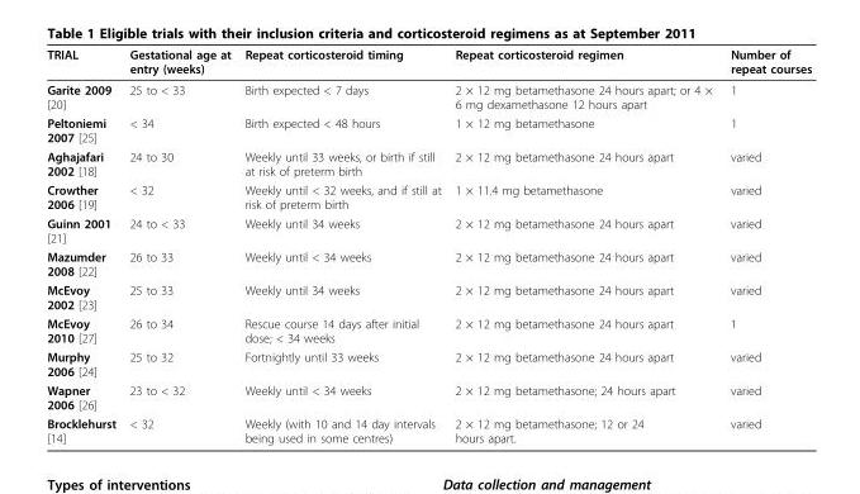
<table><thead><tr><td>TRIAL</td><td>Gestational age at entry (weeks)</td><td>Repeat corticosteroid timing</td><td>Repeat corticosteroid regimen</td><td>Number of repeat courses</td></tr></thead><tbody><tr><td>Garite 2009 [20]</td><td>25 to &lt; 33</td><td>Birth expected &lt; 7 days</td><td>2 × 12 mg betamethasone 24 hours apart; or 4 × 6 mg dexamethasone 12 hours apart</td><td>1</td></tr><tr><td>Peltoniemi 2007 [25]</td><td>&lt; 34</td><td>Birth expected &lt; 48 hours</td><td>1 × 12 mg betamethasone</td><td>1</td></tr><tr><td>Aghajafari 2002 [18]</td><td>24 to 30</td><td>Weekly until 33 weeks, or birth if still at risk of preterm birth</td><td>2 × 12 mg betamethasone 24 hours apart</td><td>varied</td></tr><tr><td>Crowther 2006 [19]</td><td>&lt; 32</td><td>Weekly until &lt; 32 weeks, and if still at risk of preterm birth</td><td>1 × 11.4 mg betamethasone</td><td>varied</td></tr><tr><td>Guinn 2001 [21]</td><td>24 to &lt; 33</td><td>Weekly until 34 weeks</td><td>2 × 12 mg betamethasone 24 hours apart</td><td>varied</td></tr><tr><td>Mazumder 2008 [22]</td><td>26 to 33</td><td>Weekly until &lt; 34 weeks</td><td>2 × 12 mg betamethasone 24 hours apart</td><td>varied</td></tr><tr><td>McEvoy 2002 [23]</td><td>25 to 33</td><td>Weekly until 34 weeks</td><td>2 × 12 mg betamethasone 24 hours apart</td><td>varied</td></tr><tr><td>McEvoy 2010 [27]</td><td>26 to 34</td><td>Rescue course 14 days after initial dose; &lt; 34 weeks</td><td>2 × 12 mg betamethasone 24 hours apart</td><td>1</td></tr><tr><td>Murphy 2006 [24]</td><td>25 to 32</td><td>Fortnightly until 33 weeks</td><td>2 × 12 mg betamethasone 24 hours apart</td><td>varied</td></tr><tr><td>Wapner 2006 [26]</td><td>23 to &lt; 32</td><td>Weekly until &lt; 34 weeks</td><td>2 × 12 mg betamethasone; 24 hours apart</td><td>varied</td></tr><tr><td>Brocklehurst [14]</td><td>&lt; 32</td><td>Weekly (with 10 and 14 day intervals being used in some centres)</td><td>2 × 12 mg betamethasone; 12 or 24 hours apart.</td><td>varied</td></tr></tbody></table>